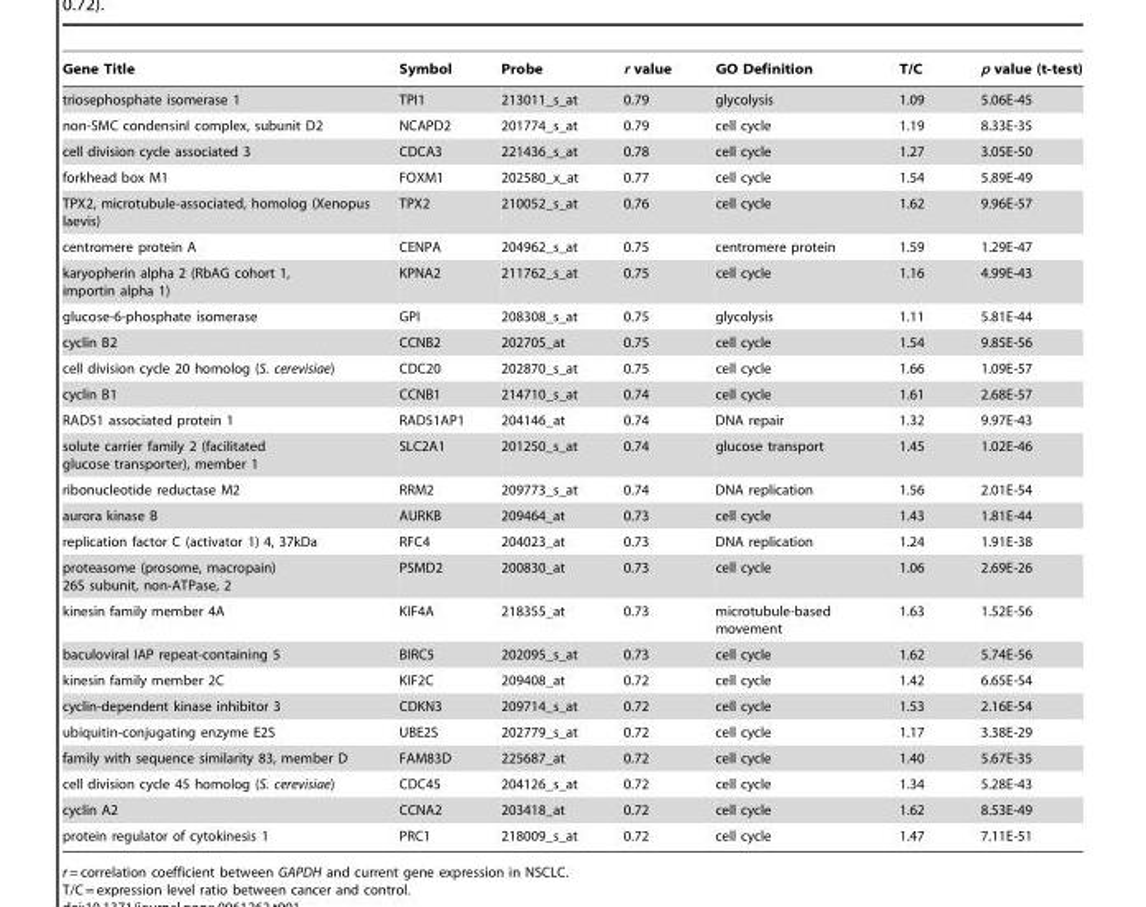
<table><thead><tr><td>Gene Title</td><td>Symbol</td><td>Probe</td><td>r value</td><td>GO Definition</td><td>T/C</td><td>p value (t-test)</td></tr></thead><tbody><tr><td>triosephosphate isomerase 1</td><td>TPI1</td><td>213011_s_at</td><td>0.79</td><td>glycolysis</td><td>1.09</td><td>5.06E-45</td></tr><tr><td>non-SMC condensinI complex, subunit D2</td><td>NCAPD2</td><td>201774_s_at</td><td>0.79</td><td>cell cycle</td><td>1.19</td><td>8.33E-35</td></tr><tr><td>cell division cycle associated 3</td><td>CDCA3</td><td>221436_s_at</td><td>0.78</td><td>cell cycle</td><td>1.27</td><td>3.05E-50</td></tr><tr><td>forkhead box M1</td><td>FOXM1</td><td>202580_x_at</td><td>0.77</td><td>cell cycle</td><td>1.54</td><td>5.89E-49</td></tr><tr><td>TPX2, microtubule-associated, homolog (Xenopus laevis)</td><td>TPX2</td><td>210052_s_at</td><td>0.76</td><td>cell cycle</td><td>1.62</td><td>9.96E-57</td></tr><tr><td>centromere protein A</td><td>CENPA</td><td>204962_s_at</td><td>0.75</td><td>centromere protein</td><td>1.59</td><td>1.29E-47</td></tr><tr><td>karyopherin alpha 2 (RbAG cohort 1, importin alpha 1)</td><td>KPNA2</td><td>211762_s_at</td><td>0.75</td><td>cell cycle</td><td>1.16</td><td>4.99E-43</td></tr><tr><td>glucose-6-phosphate isomerase</td><td>GPI</td><td>208308_s_at</td><td>0.75</td><td>glycolysis</td><td>1.11</td><td>5.81E-44</td></tr><tr><td>cyclin B2</td><td>CCNB2</td><td>202705_at</td><td>0.75</td><td>cell cycle</td><td>1.54</td><td>9.85E-56</td></tr><tr><td>cell division cycle 20 homolog (S. cerevisiae)</td><td>CDC20</td><td>202870_s_at</td><td>0.75</td><td>cell cycle</td><td>1.66</td><td>1.09E-57</td></tr><tr><td>cyclin B1</td><td>CCNB1</td><td>214710_s_at</td><td>0.74</td><td>cell cycle</td><td>1.61</td><td>2.68E-57</td></tr><tr><td>RAD51 associated protein 1</td><td>RAD51AP1</td><td>204146_at</td><td>0.74</td><td>DNA repair</td><td>1.32</td><td>9.97E-43</td></tr><tr><td>solute carrier family 2 (facilitated glucose transporter), member 1</td><td>SLC2A1</td><td>201250_s_at</td><td>0.74</td><td>glucose transport</td><td>1.45</td><td>1.02E-46</td></tr><tr><td>ribonucleotide reductase M2</td><td>RRM2</td><td>209773_s_at</td><td>0.74</td><td>DNA replication</td><td>1.56</td><td>2.01E-54</td></tr><tr><td>aurora kinase B</td><td>AURKB</td><td>209464_at</td><td>0.73</td><td>cell cycle</td><td>1.43</td><td>1.81E-44</td></tr><tr><td>replication factor C (activator 1) 4, 37kDa</td><td>RFC4</td><td>204023_at</td><td>0.73</td><td>DNA replication</td><td>1.24</td><td>1.91E-38</td></tr><tr><td>proteasome (prosome, macropain) 26S subunit, non-ATPase, 2</td><td>PSMD2</td><td>200830_at</td><td>0.73</td><td>cell cycle</td><td>1.06</td><td>2.69E-26</td></tr><tr><td>kinesin family member 4A</td><td>KIF4A</td><td>218355_at</td><td>0.73</td><td>microtubule-based movement</td><td>1.63</td><td>1.52E-56</td></tr><tr><td>baculoviral IAP repeat-containing 5</td><td>BIRC5</td><td>202095_s_at</td><td>0.73</td><td>cell cycle</td><td>1.62</td><td>5.74E-56</td></tr><tr><td>kinesin family member 2C</td><td>KIF2C</td><td>209408_at</td><td>0.72</td><td>cell cycle</td><td>1.42</td><td>6.65E-54</td></tr><tr><td>cyclin-dependent kinase inhibitor 3</td><td>CDKN3</td><td>209714_s_at</td><td>0.72</td><td>cell cycle</td><td>1.53</td><td>2.16E-54</td></tr><tr><td>ubiquitin-conjugating enzyme E2S</td><td>UBE2S</td><td>202779_s_at</td><td>0.72</td><td>cell cycle</td><td>1.17</td><td>3.38E-29</td></tr><tr><td>family with sequence similarity 83, member D</td><td>FAM83D</td><td>225687_at</td><td>0.72</td><td>cell cycle</td><td>1.40</td><td>5.67E-35</td></tr><tr><td>cell division cycle 45 homolog (S. cerevisiae)</td><td>CDC45</td><td>204126_s_at</td><td>0.72</td><td>cell cycle</td><td>1.34</td><td>5.28E-43</td></tr><tr><td>cyclin A2</td><td>CCNA2</td><td>203418_at</td><td>0.72</td><td>cell cycle</td><td>1.62</td><td>8.53E-49</td></tr><tr><td>protein regulator of cytokinesis 1</td><td>PRC1</td><td>218009_s_at</td><td>0.72</td><td>cell cycle</td><td>1.47</td><td>7.11E-51</td></tr></tbody></table>